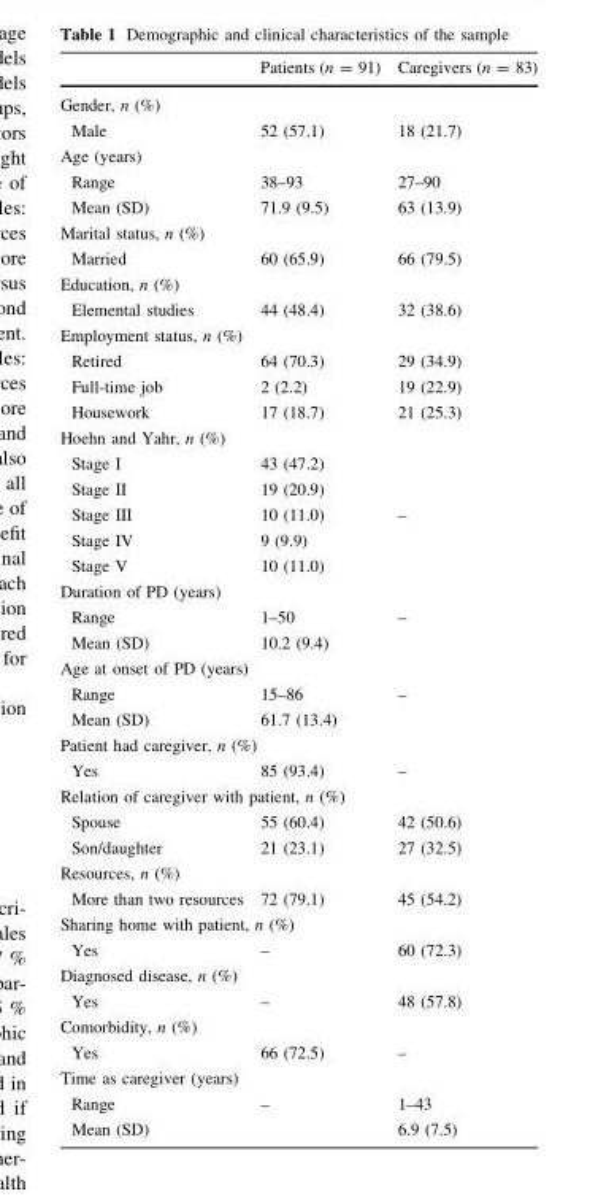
<table><thead><tr><td></td><td>Patients (n = 91)</td><td>Caregivers (n = 83)</td></tr></thead><tbody><tr><td colspan="3">Gender, n (%)</td></tr><tr><td>Male</td><td>52 (57.1)</td><td>18 (21.7)</td></tr><tr><td colspan="3">Age (years)</td></tr><tr><td>Range</td><td>38–93</td><td>27–90</td></tr><tr><td>Mean (SD)</td><td>71.9 (9.5)</td><td>63 (13.9)</td></tr><tr><td colspan="3">Marital status, n (%)</td></tr><tr><td>Married</td><td>60 (65.9)</td><td>66 (79.5)</td></tr><tr><td colspan="3">Education, n (%)</td></tr><tr><td>Elemental studies</td><td>44 (48.4)</td><td>32 (38.6)</td></tr><tr><td colspan="3">Employment status, n (%)</td></tr><tr><td>Retired</td><td>64 (70.3)</td><td>29 (34.9)</td></tr><tr><td>Full-time job</td><td>2 (2.2)</td><td>19 (22.9)</td></tr><tr><td>Housework</td><td>17 (18.7)</td><td>21 (25.3)</td></tr><tr><td colspan="3">Hoehn and Yahr, n (%)</td></tr><tr><td>Stage I</td><td>43 (47.2)</td><td></td></tr><tr><td>Stage II</td><td>19 (20.9)</td><td></td></tr><tr><td>Stage III</td><td>10 (11.0)</td><td>–</td></tr><tr><td>Stage IV</td><td>9 (9.9)</td><td></td></tr><tr><td>Stage V</td><td>10 (11.0)</td><td></td></tr><tr><td colspan="3">Duration of PD (years)</td></tr><tr><td>Range</td><td>1–50</td><td>–</td></tr><tr><td>Mean (SD)</td><td>10.2 (9.4)</td><td></td></tr><tr><td colspan="3">Age at onset of PD (years)</td></tr><tr><td>Range</td><td>15–86</td><td>–</td></tr><tr><td>Mean (SD)</td><td>61.7 (13.4)</td><td></td></tr><tr><td colspan="3">Patient had caregiver, n (%)</td></tr><tr><td>Yes</td><td>85 (93.4)</td><td>–</td></tr><tr><td colspan="3">Relation of caregiver with patient, n (%)</td></tr><tr><td>Spouse</td><td>55 (60.4)</td><td>42 (50.6)</td></tr><tr><td>Son/daughter</td><td>21 (23.1)</td><td>27 (32.5)</td></tr><tr><td colspan="3">Resources, n (%)</td></tr><tr><td>More than two resources</td><td>72 (79.1)</td><td>45 (54.2)</td></tr><tr><td colspan="3">Sharing home with patient, n (%)</td></tr><tr><td>Yes</td><td>–</td><td>60 (72.3)</td></tr><tr><td colspan="3">Diagnosed disease, n (%)</td></tr><tr><td>Yes</td><td>–</td><td>48 (57.8)</td></tr><tr><td colspan="3">Comorbidity, n (%)</td></tr><tr><td>Yes</td><td>66 (72.5)</td><td>–</td></tr><tr><td colspan="3">Time as caregiver (years)</td></tr><tr><td>Range</td><td>–</td><td>1–43</td></tr><tr><td>Mean (SD)</td><td></td><td>6.9 (7.5)</td></tr></tbody></table>